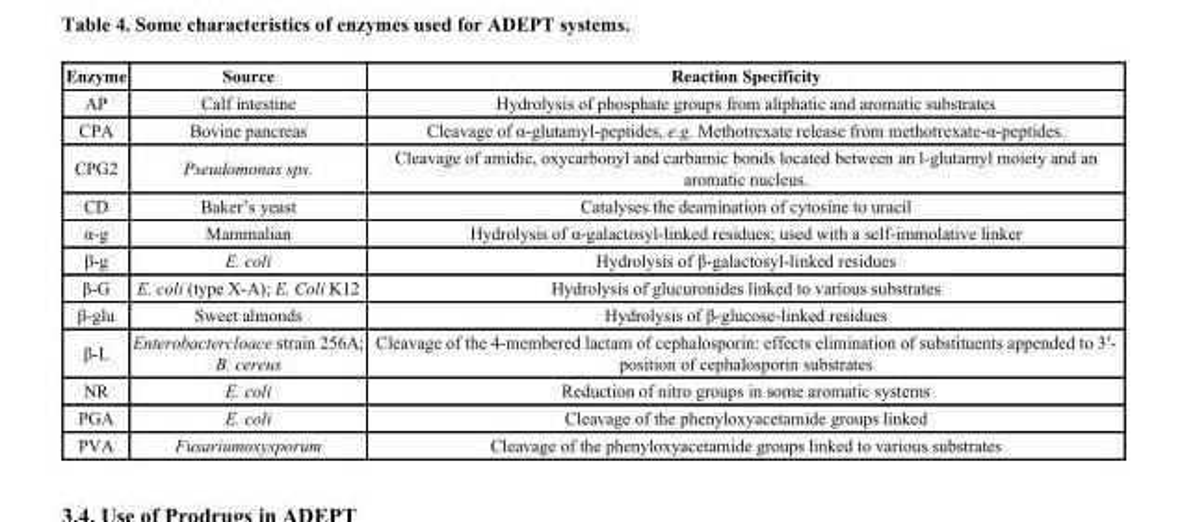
<table><thead><tr><td>Enzyme</td><td>Source</td><td>Reaction Specificity</td></tr></thead><tbody><tr><td>AP</td><td>Calf intestine</td><td>Hydrolysis of phosphate groups from aliphatic and aromatic substrates</td></tr><tr><td>CPA</td><td>Bovine pancreas</td><td>Cleavage of α-glutamyl-peptides, e.g. Methotrexate release from methotrexate-α-peptides.</td></tr><tr><td>CPG2</td><td>Pseudomonas sps.</td><td>Cleavage of amidic, oxycarbonyl and carbamic bonds located between an l-glutamyl moiety and an aromatic nucleus.</td></tr><tr><td>CD</td><td>Baker’s yeast</td><td>Catalyses the deamination of cytosine to uracil</td></tr><tr><td>α-g</td><td>Mammalian</td><td>Hydrolysis of α-galactosyl-linked residues; used with a self-immolative linker</td></tr><tr><td>β-g</td><td>E. coli</td><td>Hydrolysis of β-galactosyl-linked residues</td></tr><tr><td>β-G</td><td>E. coli (type X-A); E. Coli K12</td><td>Hydrolysis of glucuronides linked to various substrates</td></tr><tr><td>β-glu</td><td>Sweet almonds</td><td>Hydrolysis of β-glucose-linked residues</td></tr><tr><td>β-L</td><td>Enterobactercloace strain 256A; B. cereus</td><td>Cleavage of the 4-membered lactam of cephalosporin: effects elimination of substituents appended to 3′- position of cephalosporin substrates</td></tr><tr><td>NR</td><td>E. coli</td><td>Reduction of nitro groups in some aromatic systems</td></tr><tr><td>PGA</td><td>E. coli</td><td>Cleavage of the phenyloxyacetamide groups linked</td></tr><tr><td>PVA</td><td>Fusariumoxysporum</td><td>Cleavage of the phenyloxyacetamide groups linked to various substrates</td></tr></tbody></table>